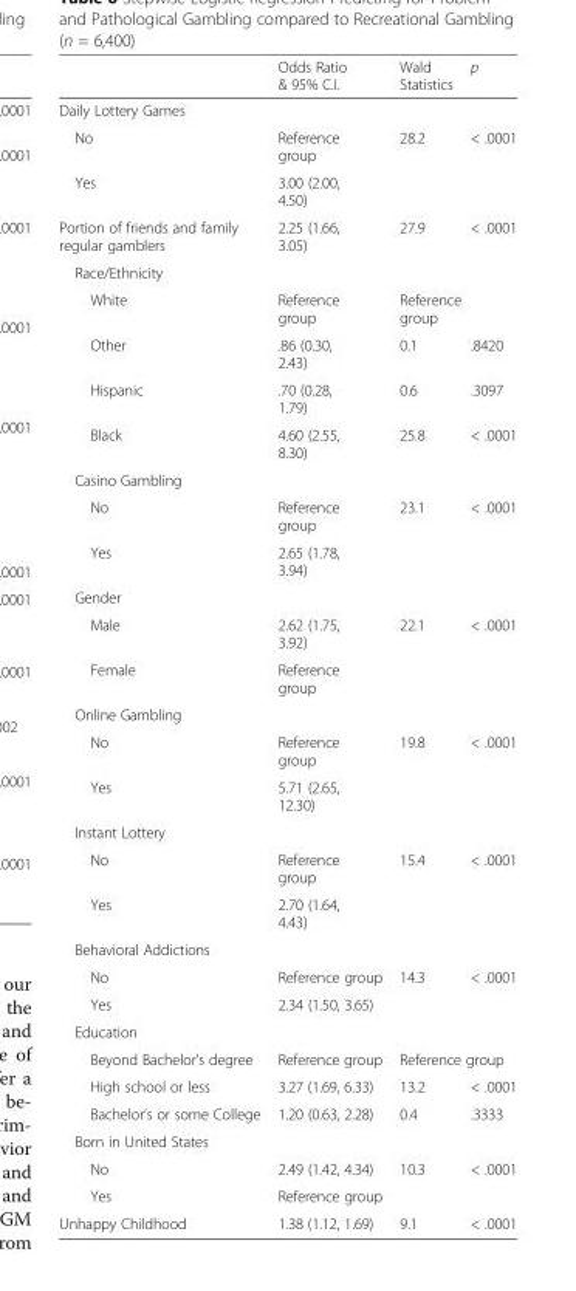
<table><thead><tr><td></td><td>Odds Ratio &amp; 95% C.I.</td><td>Wald Statistics</td><td>p</td></tr></thead><tbody><tr><td colspan="4">Daily Lottery Games</td></tr><tr><td>No</td><td>Reference group</td><td rowspan="2">28.2</td><td rowspan="2">&lt; .0001</td></tr><tr><td>Yes</td><td>3.00 (2.00, 4.50)</td></tr><tr><td>Portion of friends and family regular gamblers</td><td>2.25 (1.66, 3.05)</td><td>27.9</td><td>&lt; .0001</td></tr><tr><td colspan="4">Race/Ethnicity</td></tr><tr><td>White</td><td>Reference group</td><td colspan="2">Reference group</td></tr><tr><td>Other</td><td>.86 (0.30, 2.43)</td><td>0.1</td><td>.8420</td></tr><tr><td>Hispanic</td><td>.70 (0.28, 1.79)</td><td>0.6</td><td>.3097</td></tr><tr><td>Black</td><td>4.60 (2.55, 8.30)</td><td>25.8</td><td>&lt; .0001</td></tr><tr><td colspan="4">Casino Gambling</td></tr><tr><td>No</td><td>Reference group</td><td rowspan="2">23.1</td><td rowspan="2">&lt; .0001</td></tr><tr><td>Yes</td><td>2.65 (1.78, 3.94)</td></tr><tr><td colspan="4">Gender</td></tr><tr><td>Male</td><td>2.62 (1.75, 3.92)</td><td rowspan="2">22.1</td><td rowspan="2">&lt; .0001</td></tr><tr><td>Female</td><td>Reference group</td></tr><tr><td colspan="4">Online Gambling</td></tr><tr><td>No</td><td>Reference group</td><td rowspan="2">19.8</td><td rowspan="2">&lt; .0001</td></tr><tr><td>Yes</td><td>5.71 (2.65, 12.30)</td></tr><tr><td colspan="4">Instant Lottery</td></tr><tr><td>No</td><td>Reference group</td><td rowspan="2">15.4</td><td rowspan="2">&lt; .0001</td></tr><tr><td>Yes</td><td>2.70 (1.64, 4.43)</td></tr><tr><td colspan="4">Behavioral Addictions</td></tr><tr><td>No</td><td>Reference group</td><td rowspan="2">14.3</td><td rowspan="2">&lt; .0001</td></tr><tr><td>Yes</td><td>2.34 (1.50, 3.65)</td></tr><tr><td colspan="4">Education</td></tr><tr><td>Beyond Bachelor’s degree</td><td>Reference group</td><td colspan="2">Reference group</td></tr><tr><td>High school or less</td><td>3.27 (1.69, 6.33)</td><td>13.2</td><td>&lt; .0001</td></tr><tr><td>Bachelor’s or some College</td><td>1.20 (0.63, 2.28)</td><td>0.4</td><td>.3333</td></tr><tr><td colspan="4">Born in United States</td></tr><tr><td>No</td><td>2.49 (1.42, 4.34)</td><td rowspan="2">10.3</td><td rowspan="2">&lt; .0001</td></tr><tr><td>Yes</td><td>Reference group</td></tr><tr><td>Unhappy Childhood</td><td>1.38 (1.12, 1.69)</td><td>9.1</td><td>&lt; .0001</td></tr></tbody></table>